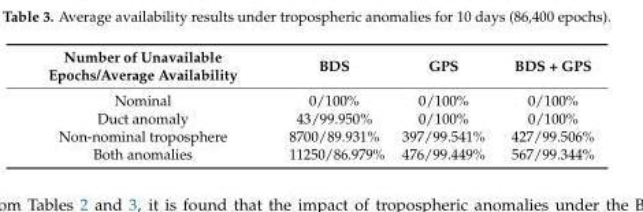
<table><thead><tr><td>Number of Unavailable Epochs/Average Availability</td><td>BDS</td><td>GPS</td><td>BDS + GPS</td></tr></thead><tbody><tr><td>Nominal</td><td>0/100%</td><td>0/100%</td><td>0/100%</td></tr><tr><td>Duct anomaly</td><td>43/99.950%</td><td>0/100%</td><td>0/100%</td></tr><tr><td>Non-nominal troposphere</td><td>8700/89.931%</td><td>397/99.541%</td><td>427/99.506%</td></tr><tr><td>Both anomalies</td><td>11250/86.979%</td><td>476/99.449%</td><td>567/99.344%</td></tr></tbody></table>